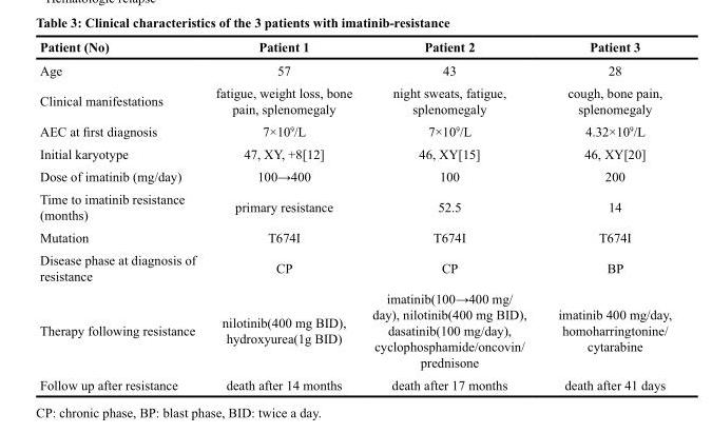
<table><thead><tr><td>Patient (No)</td><td>Patient 1</td><td>Patient 2</td><td>Patient 3</td></tr></thead><tbody><tr><td>Age</td><td>57</td><td>43</td><td>28</td></tr><tr><td>Clinical manifestations</td><td>fatigue, weight loss, bone pain, splenomegaly</td><td>night sweats, fatigue, splenomegaly</td><td>cough, bone pain, splenomegaly</td></tr><tr><td>AEC at first diagnosis</td><td>7×10<sup>9</sup>/L</td><td>7×10<sup>9</sup>/L</td><td>4.32×10<sup>9</sup>/L</td></tr><tr><td>Initial karyotype</td><td>47, XY, +8[12]</td><td>46, XY[15]</td><td>46, XY[20]</td></tr><tr><td>Dose of imatinib (mg/day)</td><td>100→400</td><td>100</td><td>200</td></tr><tr><td>Time to imatinib resistance (months)</td><td>primary resistance</td><td>52.5</td><td>14</td></tr><tr><td>Mutation</td><td>T674I</td><td>T674I</td><td>T674I</td></tr><tr><td>Disease phase at diagnosis of resistance</td><td>CP</td><td>CP</td><td>BP</td></tr><tr><td>Therapy following resistance</td><td>nilotinib(400 mg BID), hydroxyurea(1g BID)</td><td>imatinib(100→400 mg/ day), nilotinib(400 mg BID), dasatinib(100 mg/day), cyclophosphamide/oncovin/ prednisone</td><td>imatinib 400 mg/day, homoharringtonine/ cytarabine</td></tr><tr><td>Follow up after resistance</td><td>death after 14 months</td><td>death after 17 months</td><td>death after 41 days</td></tr></tbody></table>